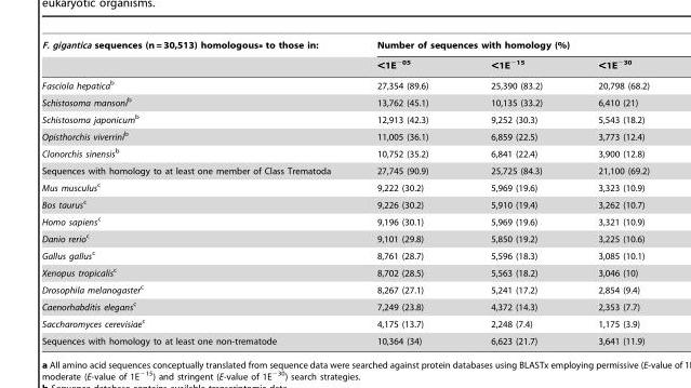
<table><thead><tr><td rowspan="2">F. gigantica sequences (n = 30,513) homologous<sup>a</sup> to those in:</td><td colspan="3">Number of sequences with homology (%)</td></tr><tr><td>&lt;1E<sup>−05</sup></td><td>&lt;1E<sup>−15</sup></td><td>&lt;1E<sup>−30</sup></td></tr></thead><tbody><tr><td>Fasciola hepaticab</td><td>27,354 (89.6)</td><td>25,390 (83.2)</td><td>20,798 (68.2)</td></tr><tr><td>Schistosoma mansonib</td><td>13,762 (45.1)</td><td>10,135 (33.2)</td><td>6,410 (21)</td></tr><tr><td>Schistosoma japonicumb</td><td>12,913 (42.3)</td><td>9,252 (30.3)</td><td>5,543 (18.2)</td></tr><tr><td>Opisthorchis viverrinib</td><td>11,005 (36.1)</td><td>6,859 (22.5)</td><td>3,773 (12.4)</td></tr><tr><td>Clonorchis sinensisb</td><td>10,752 (35.2)</td><td>6,841 (22.4)</td><td>3,900 (12.8)</td></tr><tr><td>Sequences with homology to at least one member of Class Trematoda</td><td>27,745 (90.9)</td><td>25,725 (84.3)</td><td>21,100 (69.2)</td></tr><tr><td>Mus musculusc</td><td>9,222 (30.2)</td><td>5,969 (19.6)</td><td>3,323 (10.9)</td></tr><tr><td>Bos taurusc</td><td>9,226 (30.2)</td><td>5,910 (19.4)</td><td>3,262 (10.7)</td></tr><tr><td>Homo sapiensc</td><td>9,196 (30.1)</td><td>5,969 (19.6)</td><td>3,321 (10.9)</td></tr><tr><td>Danio rerioc</td><td>9,101 (29.8)</td><td>5,850 (19.2)</td><td>3,225 (10.6)</td></tr><tr><td>Gallus gallusc</td><td>8,761 (28.7)</td><td>5,596 (18.3)</td><td>3,085 (10.1)</td></tr><tr><td>Xenopus tropicalisc</td><td>8,702 (28.5)</td><td>5,563 (18.2)</td><td>3,046 (10)</td></tr><tr><td>Drosophila melanogasterc</td><td>8,267 (27.1)</td><td>5,241 (17.2)</td><td>2,854 (9.4)</td></tr><tr><td>Caenorhabditis elegansc</td><td>7,249 (23.8)</td><td>4,372 (14.3)</td><td>2,353 (7.7)</td></tr><tr><td>Saccharomyces cerevisiaec</td><td>4,175 (13.7)</td><td>2,248 (7.4)</td><td>1,175 (3.9)</td></tr><tr><td>Sequences with homology to at least one non-trematode</td><td>10,364 (34)</td><td>6,623 (21.7)</td><td>3,641 (11.9)</td></tr></tbody></table>